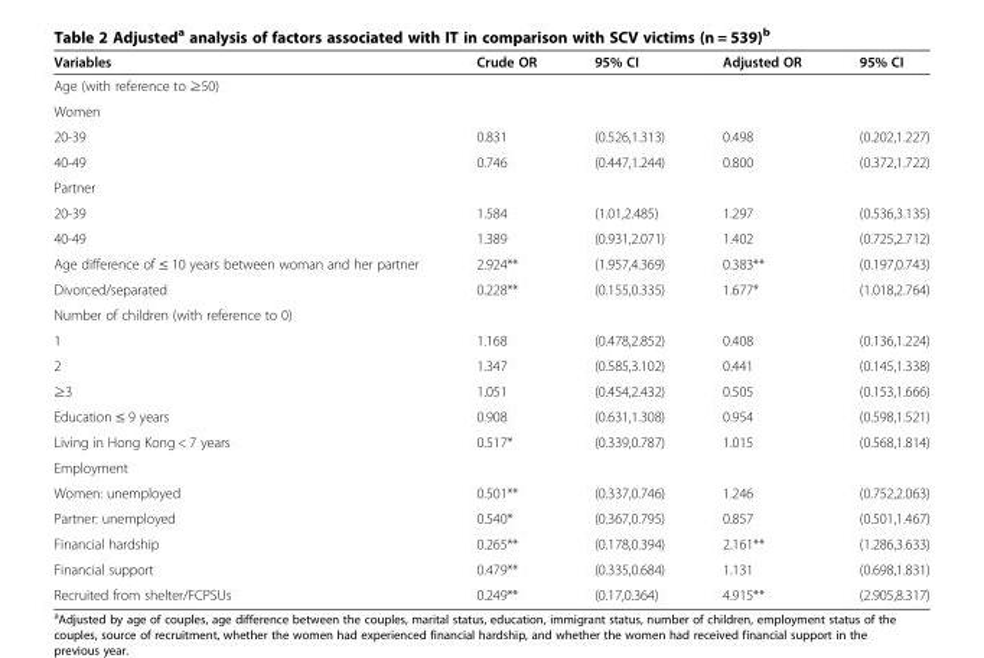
<table><thead><tr><td>Variables</td><td>Crude OR</td><td>95% CI</td><td>Adjusted OR</td><td>95% CI</td></tr></thead><tbody><tr><td colspan="5">Age (with reference to ≥50)</td></tr><tr><td colspan="5">Women</td></tr><tr><td>20-39</td><td>0.831</td><td>(0.526,1.313)</td><td>0.498</td><td>(0.202,1.227)</td></tr><tr><td>40-49</td><td>0.746</td><td>(0.447,1.244)</td><td>0.800</td><td>(0.372,1.722)</td></tr><tr><td colspan="5">Partner</td></tr><tr><td>20-39</td><td>1.584</td><td>(1.01,2.485)</td><td>1.297</td><td>(0.536,3.135)</td></tr><tr><td>40-49</td><td>1.389</td><td>(0.931,2.071)</td><td>1.402</td><td>(0.725,2.712)</td></tr><tr><td>Age difference of ≤ 10 years between woman and her partner</td><td>2.924**</td><td>(1.957,4.369)</td><td>0.383**</td><td>(0.197,0.743)</td></tr><tr><td>Divorced/separated</td><td>0.228**</td><td>(0.155,0.335)</td><td>1.677*</td><td>(1.018,2.764)</td></tr><tr><td colspan="5">Number of children (with reference to 0)</td></tr><tr><td>1</td><td>1.168</td><td>(0.478,2.852)</td><td>0.408</td><td>(0.136,1.224)</td></tr><tr><td>2</td><td>1.347</td><td>(0.585,3.102)</td><td>0.441</td><td>(0.145,1.338)</td></tr><tr><td>≥3</td><td>1.051</td><td>(0.454,2.432)</td><td>0.505</td><td>(0.153,1.666)</td></tr><tr><td>Education ≤ 9 years</td><td>0.908</td><td>(0.631,1.308)</td><td>0.954</td><td>(0.598,1.521)</td></tr><tr><td>Living in Hong Kong &lt; 7 years</td><td>0.517*</td><td>(0.339,0.787)</td><td>1.015</td><td>(0.568,1.814)</td></tr><tr><td colspan="5">Employment</td></tr><tr><td>Women: unemployed</td><td>0.501**</td><td>(0.337,0.746)</td><td>1.246</td><td>(0.752,2.063)</td></tr><tr><td>Partner: unemployed</td><td>0.540*</td><td>(0.367,0.795)</td><td>0.857</td><td>(0.501,1.467)</td></tr><tr><td>Financial hardship</td><td>0.265**</td><td>(0.178,0.394)</td><td>2.161**</td><td>(1.286,3.633)</td></tr><tr><td>Financial support</td><td>0.479**</td><td>(0.335,0.684)</td><td>1.131</td><td>(0.698,1.831)</td></tr><tr><td>Recruited from shelter/FCPSUs</td><td>0.249**</td><td>(0.17,0.364)</td><td>4.915**</td><td>(2.905,8.317)</td></tr></tbody></table>